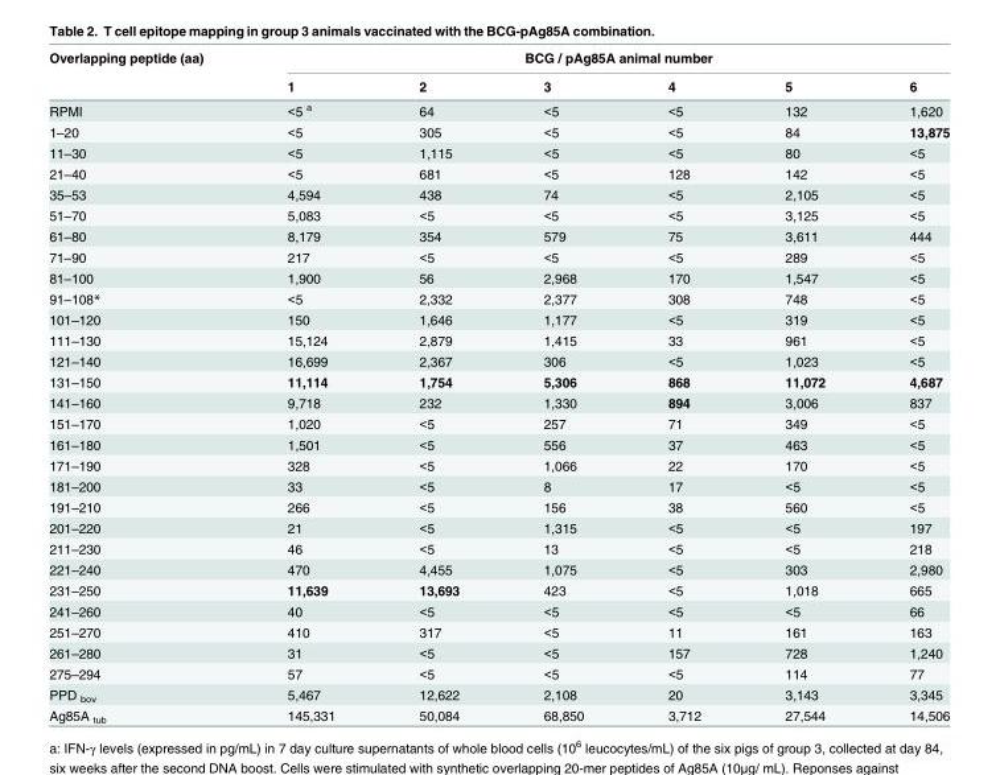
<table><thead><tr><td rowspan="2">Overlapping peptide (aa)</td><td colspan="6">BCG / pAg85A animal number</td></tr><tr><td>1</td><td>2</td><td>3</td><td>4</td><td>5</td><td>6</td></tr></thead><tbody><tr><td>RPMI</td><td>&lt;5 <sup>a</sup></td><td>64</td><td>&lt;5</td><td>&lt;5</td><td>132</td><td>1,620</td></tr><tr><td>1–20</td><td>&lt;5</td><td>305</td><td>&lt;5</td><td>&lt;5</td><td>84</td><td>13,875</td></tr><tr><td>11–30</td><td>&lt;5</td><td>1,115</td><td>&lt;5</td><td>&lt;5</td><td>80</td><td>&lt;5</td></tr><tr><td>21–40</td><td>&lt;5</td><td>681</td><td>&lt;5</td><td>128</td><td>142</td><td>&lt;5</td></tr><tr><td>35–53</td><td>4,594</td><td>438</td><td>74</td><td>&lt;5</td><td>2,105</td><td>&lt;5</td></tr><tr><td>51–70</td><td>5,083</td><td>&lt;5</td><td>&lt;5</td><td>&lt;5</td><td>3,125</td><td>&lt;5</td></tr><tr><td>61–80</td><td>8,179</td><td>354</td><td>579</td><td>75</td><td>3,611</td><td>444</td></tr><tr><td>71–90</td><td>217</td><td>&lt;5</td><td>&lt;5</td><td>&lt;5</td><td>289</td><td>&lt;5</td></tr><tr><td>81–100</td><td>1,900</td><td>56</td><td>2,968</td><td>170</td><td>1,547</td><td>&lt;5</td></tr><tr><td>91–108*</td><td>&lt;5</td><td>2,332</td><td>2,377</td><td>308</td><td>748</td><td>&lt;5</td></tr><tr><td>101–120</td><td>150</td><td>1,646</td><td>1,177</td><td>&lt;5</td><td>319</td><td>&lt;5</td></tr><tr><td>111–130</td><td>15,124</td><td>2,879</td><td>1,415</td><td>33</td><td>961</td><td>&lt;5</td></tr><tr><td>121–140</td><td>16,699</td><td>2,367</td><td>306</td><td>&lt;5</td><td>1,023</td><td>&lt;5</td></tr><tr><td>131–150</td><td>11,114</td><td>1,754</td><td>5,306</td><td>868</td><td>11,072</td><td>4,687</td></tr><tr><td>141–160</td><td>9,718</td><td>232</td><td>1,330</td><td>894</td><td>3,006</td><td>837</td></tr><tr><td>151–170</td><td>1,020</td><td>&lt;5</td><td>257</td><td>71</td><td>349</td><td>&lt;5</td></tr><tr><td>161–180</td><td>1,501</td><td>&lt;5</td><td>556</td><td>37</td><td>463</td><td>&lt;5</td></tr><tr><td>171–190</td><td>328</td><td>&lt;5</td><td>1,066</td><td>22</td><td>170</td><td>&lt;5</td></tr><tr><td>181–200</td><td>33</td><td>&lt;5</td><td>8</td><td>17</td><td>&lt;5</td><td>&lt;5</td></tr><tr><td>191–210</td><td>266</td><td>&lt;5</td><td>156</td><td>38</td><td>560</td><td>&lt;5</td></tr><tr><td>201–220</td><td>21</td><td>&lt;5</td><td>1,315</td><td>&lt;5</td><td>&lt;5</td><td>197</td></tr><tr><td>211–230</td><td>46</td><td>&lt;5</td><td>13</td><td>&lt;5</td><td>&lt;5</td><td>218</td></tr><tr><td>221–240</td><td>470</td><td>4,455</td><td>1,075</td><td>&lt;5</td><td>303</td><td>2,980</td></tr><tr><td>231–250</td><td>11,639</td><td>13,693</td><td>423</td><td>&lt;5</td><td>1,018</td><td>665</td></tr><tr><td>241–260</td><td>40</td><td>&lt;5</td><td>&lt;5</td><td>&lt;5</td><td>&lt;5</td><td>66</td></tr><tr><td>251–270</td><td>410</td><td>317</td><td>&lt;5</td><td>11</td><td>161</td><td>163</td></tr><tr><td>261–280</td><td>31</td><td>&lt;5</td><td>&lt;5</td><td>157</td><td>728</td><td>1,240</td></tr><tr><td>275–294</td><td>57</td><td>&lt;5</td><td>&lt;5</td><td>&lt;5</td><td>114</td><td>77</td></tr><tr><td>PPD <sub>bov</sub></td><td>5,467</td><td>12,622</td><td>2,108</td><td>20</td><td>3,143</td><td>3,345</td></tr><tr><td>Ag85A <sub>tub</sub></td><td>145,331</td><td>50,084</td><td>68,850</td><td>3,712</td><td>27,544</td><td>14,506</td></tr></tbody></table>